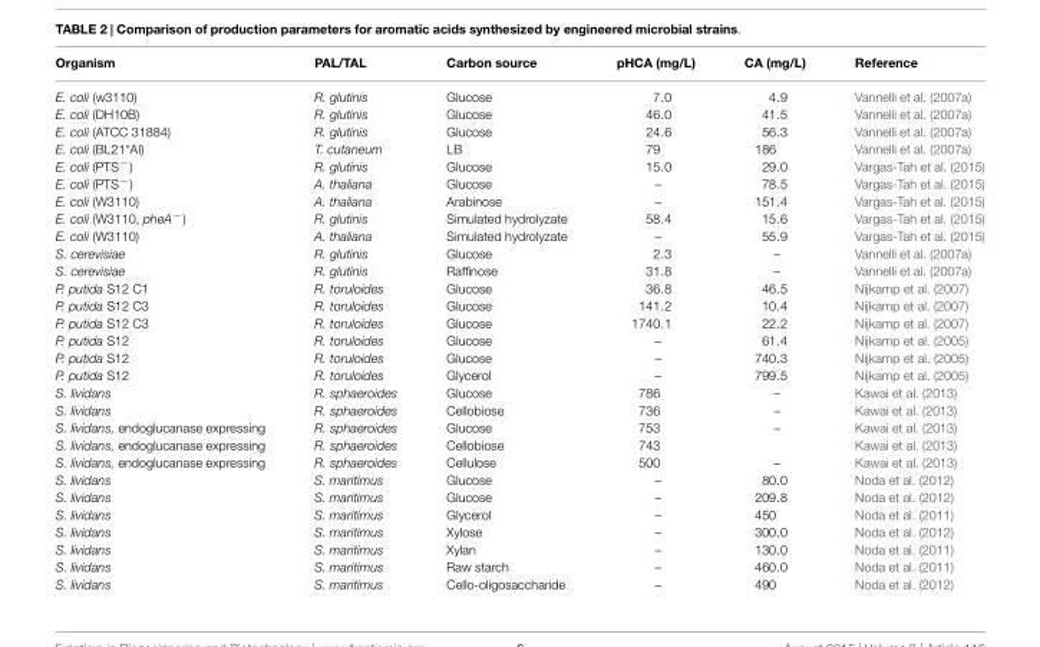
<table><thead><tr><td>Organism</td><td>PAL/TAL</td><td>Carbon source</td><td>pHCA (mg/L)</td><td>CA (mg/L)</td><td>Reference</td></tr></thead><tbody><tr><td>E. coli (w3110)</td><td>R. glutinis</td><td>Glucose</td><td>7.0</td><td>4.9</td><td>Vannelli et al. (2007a)</td></tr><tr><td>E. coli (DH10B)</td><td>R. glutinis</td><td>Glucose</td><td>46.0</td><td>41.5</td><td>Vannelli et al. (2007a)</td></tr><tr><td>E. coli (ATCC 31884)</td><td>R. glutinis</td><td>Glucose</td><td>24.6</td><td>56.3</td><td>Vannelli et al. (2007a)</td></tr><tr><td>E. coli (BL21*AI)</td><td>T. cutaneum</td><td>LB</td><td>79</td><td>186</td><td>Vannelli et al. (2007a)</td></tr><tr><td>E. coli (PTS<sup>−</sup>)</td><td>R. glutinis</td><td>Glucose</td><td>15.0</td><td>29.0</td><td>Vargas-Tah et al. (2015)</td></tr><tr><td>E. coli (PTS<sup>−</sup>)</td><td>A. thaliana</td><td>Glucose</td><td>–</td><td>78.5</td><td>Vargas-Tah et al. (2015)</td></tr><tr><td>E. coli (W3110)</td><td>A. thaliana</td><td>Arabinose</td><td>–</td><td>151.4</td><td>Vargas-Tah et al. (2015)</td></tr><tr><td>E. coli (W3110, pheA<sup>−</sup>)</td><td>R. glutinis</td><td>Simulated hydrolyzate</td><td>58.4</td><td>15.6</td><td>Vargas-Tah et al. (2015)</td></tr><tr><td>E. coli (W3110)</td><td>A. thaliana</td><td>Simulated hydrolyzate</td><td>–</td><td>55.9</td><td>Vargas-Tah et al. (2015)</td></tr><tr><td>S. cerevisiae</td><td>R. glutinis</td><td>Glucose</td><td>2.3</td><td>–</td><td>Vannelli et al. (2007a)</td></tr><tr><td>S. cerevisiae</td><td>R. glutinis</td><td>Raffinose</td><td>31.8</td><td>–</td><td>Vannelli et al. (2007a)</td></tr><tr><td>P. putida S12 C1</td><td>R. toruloides</td><td>Glucose</td><td>36.8</td><td>46.5</td><td>Nijkamp et al. (2007)</td></tr><tr><td>P. putida S12 C3</td><td>R. toruloides</td><td>Glucose</td><td>141.2</td><td>10.4</td><td>Nijkamp et al. (2007)</td></tr><tr><td>P. putida S12 C3</td><td>R. toruloides</td><td>Glucose</td><td>1740.1</td><td>22.2</td><td>Nijkamp et al. (2007)</td></tr><tr><td>P. putida S12</td><td>R. toruloides</td><td>Glucose</td><td>–</td><td>61.4</td><td>Nijkamp et al. (2005)</td></tr><tr><td>P. putida S12</td><td>R. toruloides</td><td>Glucose</td><td>–</td><td>740.3</td><td>Nijkamp et al. (2005)</td></tr><tr><td>P. putida S12</td><td>R. toruloides</td><td>Glycerol</td><td>–</td><td>799.5</td><td>Nijkamp et al. (2005)</td></tr><tr><td>S. lividans</td><td>R. sphaeroides</td><td>Glucose</td><td>786</td><td>–</td><td>Kawai et al. (2013)</td></tr><tr><td>S. lividans</td><td>R. sphaeroides</td><td>Cellobiose</td><td>736</td><td>–</td><td>Kawai et al. (2013)</td></tr><tr><td>S. lividans, endoglucanase expressing</td><td>R. sphaeroides</td><td>Glucose</td><td>753</td><td>–</td><td>Kawai et al. (2013)</td></tr><tr><td>S. lividans, endoglucanase expressing</td><td>R. sphaeroides</td><td>Cellobiose</td><td>743</td><td></td><td>Kawai et al. (2013)</td></tr><tr><td>S. lividans, endoglucanase expressing</td><td>R. sphaeroides</td><td>Cellulose</td><td>500</td><td>–</td><td>Kawai et al. (2013)</td></tr><tr><td>S. lividans</td><td>S. maritimus</td><td>Glucose</td><td>–</td><td>80.0</td><td>Noda et al. (2012)</td></tr><tr><td>S. lividans</td><td>S. maritimus</td><td>Glucose</td><td>–</td><td>209.8</td><td>Noda et al. (2012)</td></tr><tr><td>S. lividans</td><td>S. maritimus</td><td>Glycerol</td><td>–</td><td>450</td><td>Noda et al. (2011)</td></tr><tr><td>S. lividans</td><td>S. maritimus</td><td>Xylose</td><td>–</td><td>300.0</td><td>Noda et al. (2012)</td></tr><tr><td>S. lividans</td><td>S. maritimus</td><td>Xylan</td><td>–</td><td>130.0</td><td>Noda et al. (2011)</td></tr><tr><td>S. lividans</td><td>S. maritimus</td><td>Raw starch</td><td>–</td><td>460.0</td><td>Noda et al. (2011)</td></tr><tr><td>S. lividans</td><td>S. maritimus</td><td>Cello-oligosaccharide</td><td>–</td><td>490</td><td>Noda et al. (2012)</td></tr></tbody></table>